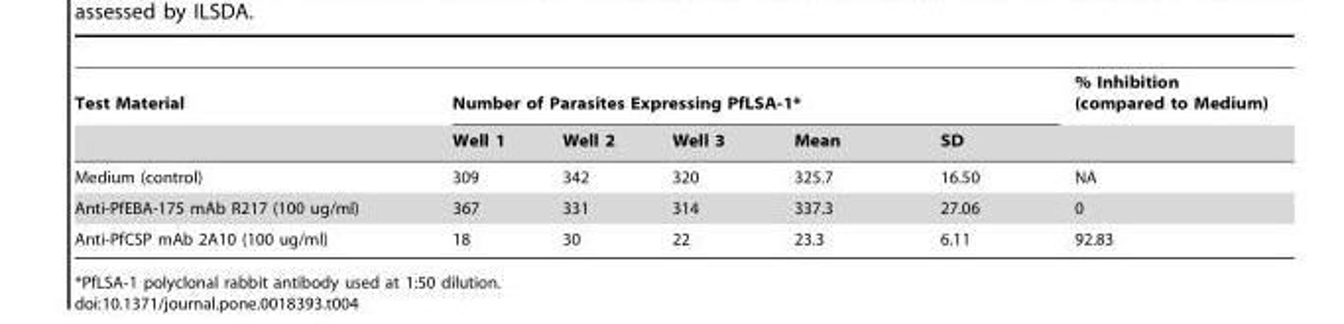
<table><thead><tr><td rowspan="2">Test Material</td><td colspan="5">Number of Parasites Expressing PfLSA-1*</td><td rowspan="2">% Inhibition (compared to Medium)</td></tr><tr><td>Well 1</td><td>Well 2</td><td>Well 3</td><td>Mean</td><td>SD</td></tr></thead><tbody><tr><td>Medium (control)</td><td>309</td><td>342</td><td>320</td><td>325.7</td><td>16.50</td><td>NA</td></tr><tr><td>Anti-PfEBA-175 mAb R217 (100 ug/ml)</td><td>367</td><td>331</td><td>314</td><td>337.3</td><td>27.06</td><td>0</td></tr><tr><td>Anti-PfCSP mAb 2A10 (100 ug/ml)</td><td>18</td><td>30</td><td>22</td><td>23.3</td><td>6.11</td><td>92.83</td></tr></tbody></table>